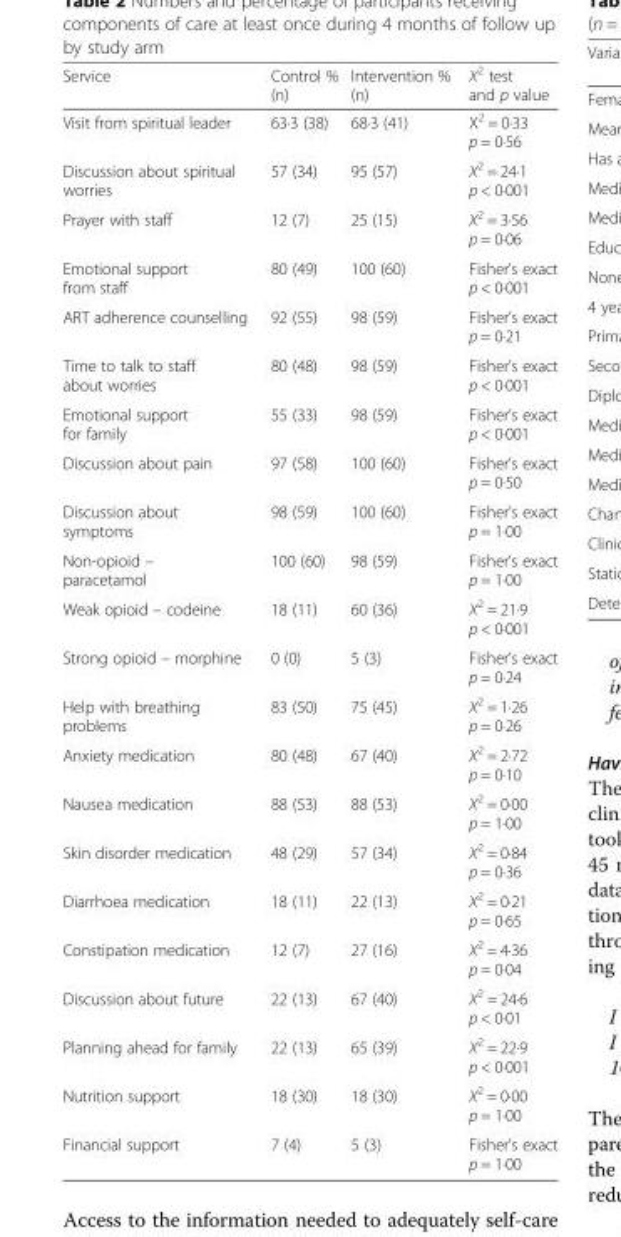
<table><thead><tr><td>Service</td><td>Control % (n)</td><td>Intervention % (n)</td><td>X<sup>2</sup> test and p value</td></tr></thead><tbody><tr><td>Visit from spiritual leader</td><td>63·3 (38)</td><td>68·3 (41)</td><td>X<sup>2</sup> = 0·33 p = 0·56</td></tr><tr><td>Discussion about spiritual worries</td><td>57 (34)</td><td>95 (57)</td><td>X<sup>2</sup> = 24·1 p &lt; 0·001</td></tr><tr><td>Prayer with staff</td><td>12 (7)</td><td>25 (15)</td><td>X<sup>2</sup> = 3·56 p = 0·06</td></tr><tr><td>Emotional support from staff</td><td>80 (49)</td><td>100 (60)</td><td>Fisher’s exact p &lt; 0·001</td></tr><tr><td>ART adherence counselling</td><td>92 (55)</td><td>98 (59)</td><td>Fisher’s exact p = 0·21</td></tr><tr><td>Time to talk to staff about worries</td><td>80 (48)</td><td>98 (59)</td><td>Fisher’s exact p &lt; 0·001</td></tr><tr><td>Emotional support for family</td><td>55 (33)</td><td>98 (59)</td><td>Fisher’s exact p &lt; 0·001</td></tr><tr><td>Discussion about pain</td><td>97 (58)</td><td>100 (60)</td><td>Fisher’s exact p = 0·50</td></tr><tr><td>Discussion about symptoms</td><td>98 (59)</td><td>100 (60)</td><td>Fisher’s exact p = 1·00</td></tr><tr><td>Non-opioid – paracetamol</td><td>100 (60)</td><td>98 (59)</td><td>Fisher’s exact p = 1·00</td></tr><tr><td>Weak opioid – codeine</td><td>18 (11)</td><td>60 (36)</td><td>X<sup>2</sup> = 21·9 p &lt; 0·001</td></tr><tr><td>Strong opioid – morphine</td><td>0 (0)</td><td>5 (3)</td><td>Fisher’s exact p = 0·24</td></tr><tr><td>Help with breathing problems</td><td>83 (50)</td><td>75 (45)</td><td>X<sup>2</sup> = 1·26 p = 0·26</td></tr><tr><td>Anxiety medication</td><td>80 (48)</td><td>67 (40)</td><td>X<sup>2</sup> = 2·72 p = 0·10</td></tr><tr><td>Nausea medication</td><td>88 (53)</td><td>88 (53)</td><td>X<sup>2</sup> = 0·00 p = 1·00</td></tr><tr><td>Skin disorder medication</td><td>48 (29)</td><td>57 (34)</td><td>X<sup>2</sup> = 0·84 p = 0·36</td></tr><tr><td>Diarrhoea medication</td><td>18 (11)</td><td>22 (13)</td><td>X<sup>2</sup> = 0·21 p = 0·65</td></tr><tr><td>Constipation medication</td><td>12 (7)</td><td>27 (16)</td><td>X<sup>2</sup> = 4·36 p = 0·04</td></tr><tr><td>Discussion about future</td><td>22 (13)</td><td>67 (40)</td><td>X<sup>2</sup> = 24·6 p &lt; 0·01</td></tr><tr><td>Planning ahead for family</td><td>22 (13)</td><td>65 (39)</td><td>X<sup>2</sup> = 22·9 p &lt; 0·001</td></tr><tr><td>Nutrition support</td><td>18 (30)</td><td>18 (30)</td><td>X<sup>2</sup> = 0·00 p = 1·00</td></tr><tr><td>Financial support</td><td>7 (4)</td><td>5 (3)</td><td>Fisher’s exact p = 1·00</td></tr></tbody></table>